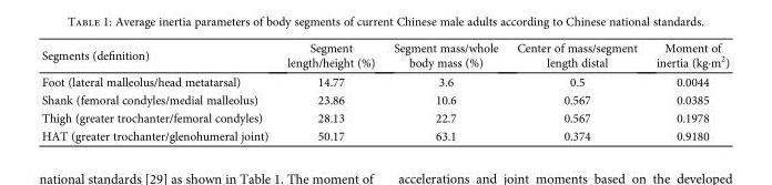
<table><thead><tr><td>Segments (definition)</td><td>Segment length/height (%)</td><td>Segment mass/whole body mass (%)</td><td>Center of mass/segment length distal</td><td>Moment of inertia (kg·m<sup>2</sup>)</td></tr></thead><tbody><tr><td>Foot (lateral malleolus/head metatarsal)</td><td>14.77</td><td>3.6</td><td>0.5</td><td>0.0044</td></tr><tr><td>Shank (femoral condyles/medial malleolus)</td><td>23.86</td><td>10.6</td><td>0.567</td><td>0.0385</td></tr><tr><td>Thigh (greater trochanter/femoral condyles)</td><td>28.13</td><td>22.7</td><td>0.567</td><td>0.1978</td></tr><tr><td>HAT (greater trochanter/glenohumeral joint)</td><td>50.17</td><td>63.1</td><td>0.374</td><td>0.9180</td></tr></tbody></table>